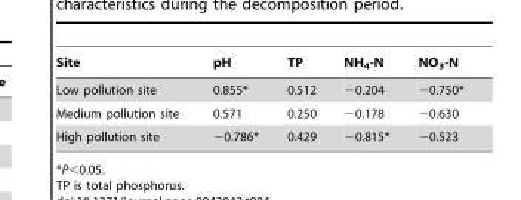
<table><thead><tr><td>Site</td><td>pH</td><td>TP</td><td>NH<sub>4</sub>-N</td><td>NO<sub>3</sub>-N</td></tr></thead><tbody><tr><td>Low pollution site</td><td>0.855*</td><td>0.512</td><td>−0.204</td><td>−0.750*</td></tr><tr><td>Medium pollution site</td><td>0.571</td><td>0.250</td><td>−0.178</td><td>−0.630</td></tr><tr><td>High pollution site</td><td>−0.786*</td><td>0.429</td><td>−0.815*</td><td>−0.523</td></tr></tbody></table>